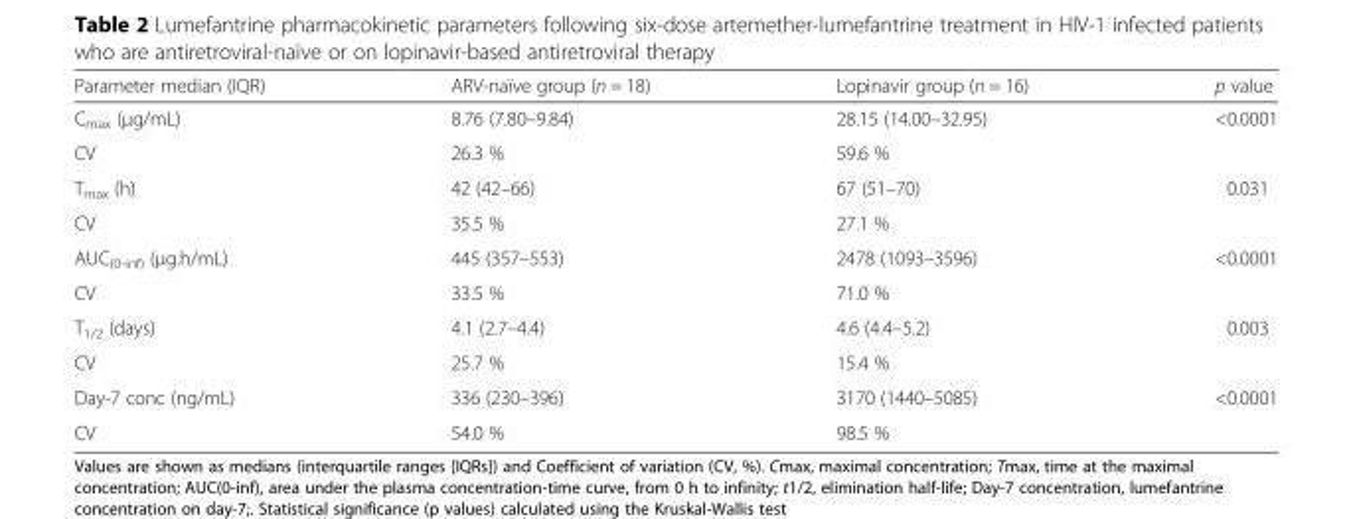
<table><thead><tr><td>Parameter median (IQR)</td><td>ARV-naïve group (n = 18)</td><td>Lopinavir group (n = 16)</td><td>p value</td></tr></thead><tbody><tr><td>C<sub>max</sub> (μg/mL)</td><td>8.76 (7.80–9.84)</td><td>28.15 (14.00–32.95)</td><td rowspan="2">&lt;0.0001</td></tr><tr><td>CV</td><td>26.3 %</td><td>59.6 %</td></tr><tr><td>T<sub>max</sub> (h)</td><td>42 (42–66)</td><td>67 (51–70)</td><td rowspan="2">0.031</td></tr><tr><td>CV</td><td>35.5 %</td><td>27.1 %</td></tr><tr><td>AUC<sub>(0-inf)</sub> (μg.h/mL)</td><td>445 (357–553)</td><td>2478 (1093–3596)</td><td rowspan="2">&lt;0.0001</td></tr><tr><td>CV</td><td>33.5 %</td><td>71.0 %</td></tr><tr><td>T<sub>1/2</sub> (days)</td><td>4.1 (2.7–4.4)</td><td>4.6 (4.4–5.2)</td><td rowspan="2">0.003</td></tr><tr><td>CV</td><td>25.7 %</td><td>15.4 %</td></tr><tr><td>Day-7 conc (ng/mL)</td><td>336 (230–396)</td><td>3170 (1440–5085)</td><td rowspan="2">&lt;0.0001</td></tr><tr><td>CV</td><td>54.0 %</td><td>98.5 %</td></tr></tbody></table>